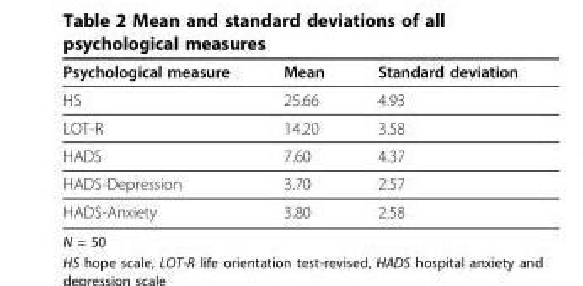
<table><thead><tr><td>Psychological measure</td><td>Mean</td><td>Standard deviation</td></tr></thead><tbody><tr><td>HS</td><td>25.66</td><td>4.93</td></tr><tr><td>LOT-R</td><td>14.20</td><td>3.58</td></tr><tr><td>HADS</td><td>7.60</td><td>4.37</td></tr><tr><td>HADS-Depression</td><td>3.70</td><td>2.57</td></tr><tr><td>HADS-Anxiety</td><td>3.80</td><td>2.58</td></tr></tbody></table>